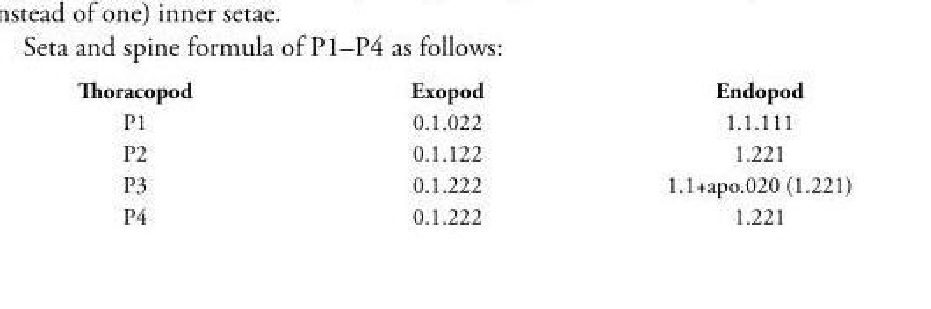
<table><tbody><tr><td>Thoracopod</td><td>Exopod</td><td>Endopod</td></tr><tr><td>P1</td><td>0.1.022</td><td>1.1.111</td></tr><tr><td>P2</td><td>0.1.122</td><td>1.221</td></tr><tr><td>P3</td><td>0.1.222</td><td>1.1+apo.020 (1.221)</td></tr><tr><td>P4</td><td>0.1.222</td><td>1.221</td></tr></tbody></table>